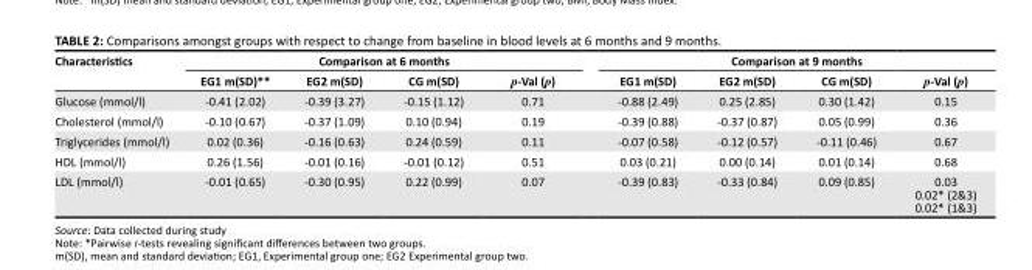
<table><thead><tr><td rowspan="2">Characteristics</td><td colspan="4">Comparison at 6 months</td><td colspan="4">Comparison at 9 months</td></tr><tr><td>EG1 m(SD)**</td><td>EG2 m(SD)</td><td>CG m(SD)</td><td>p-Val (p)</td><td>EG1 m(SD)</td><td>EG2 m(SD)</td><td>CG m(SD)</td><td>p-Val (p)</td></tr></thead><tbody><tr><td>Glucose (mmol/l)</td><td>-0.41 (2.02)</td><td>-0.39 (3.27)</td><td>-0.15 (1.12)</td><td>0.71</td><td>-0.88 (2.49)</td><td>0.25 (2.85)</td><td>0.30 (1.42)</td><td>0.15</td></tr><tr><td>Cholesterol (mmol/l)</td><td>-0.10 (0.67)</td><td>-0.37 (1.09)</td><td>0.10 (0.94)</td><td>0.19</td><td>-0.39 (0.88)</td><td>-0.37 (0.87)</td><td>0.05 (0.99)</td><td>0.36</td></tr><tr><td>Triglycerides (mmol/l)</td><td>0.02 (0.36)</td><td>-0.16 (0.63)</td><td>0.24 (0.59)</td><td>0.11</td><td>-0.07 (0.58)</td><td>-0.12 (0.57)</td><td>-0.11 (0.46)</td><td>0.67</td></tr><tr><td>HDL (mmol/l)</td><td>0.26 (1.56)</td><td>-0.01 (0.16)</td><td>-0.01 (0.12)</td><td>0.51</td><td>0.03 (0.21)</td><td>0.00 (0.14)</td><td>0.01 (0.14)</td><td>0.68</td></tr><tr><td>LDL (mmol/l)</td><td>-0.01 (0.65)</td><td>-0.30 (0.95)</td><td>0.22 (0.99)</td><td>0.07</td><td>-0.39 (0.83)</td><td>-0.33 (0.84)</td><td>0.09 (0.85)</td><td>0.03 0.02* (2&amp;3) 0.02* (1&amp;3)</td></tr></tbody></table>